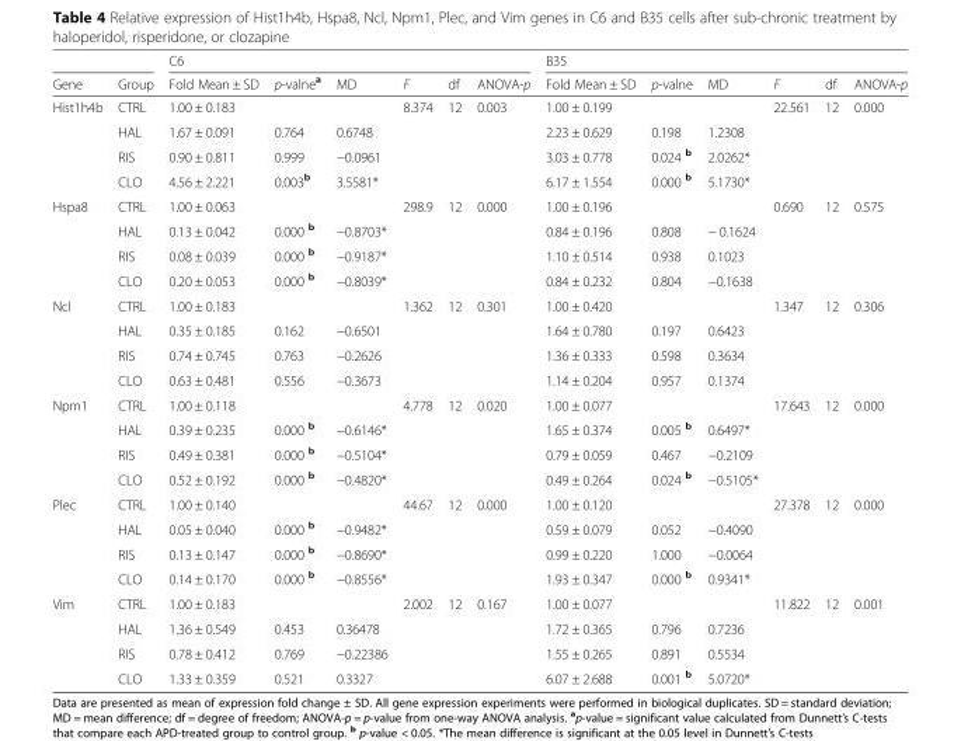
<table><thead><tr><td rowspan="2">Gene</td><td rowspan="2">Group</td><td colspan="6">C6</td><td colspan="6">B35</td></tr><tr><td>Fold Mean ± SD</td><td>p-valne<sup>a</sup></td><td>MD</td><td>F</td><td>df</td><td>ANOVA-p</td><td>Fold Mean ± SD</td><td>p-valne</td><td>MD</td><td>F</td><td>df</td><td>ANOVA-p</td></tr></thead><tbody><tr><td rowspan="4">Hist1h4b</td><td>CTRL</td><td>1.00 ± 0.183</td><td></td><td></td><td rowspan="4">8.374</td><td rowspan="4">12</td><td rowspan="4">0.003</td><td>1.00 ± 0.199</td><td></td><td></td><td rowspan="4">22.561</td><td rowspan="4">12</td><td rowspan="4">0.000</td></tr><tr><td>HAL</td><td>1.67 ± 0.091</td><td>0.764</td><td>0.6748</td><td>2.23 ± 0.629</td><td>0.198</td><td>1.2308</td></tr><tr><td>RIS</td><td>0.90 ± 0.811</td><td>0.999</td><td>−0.0961</td><td>3.03 ± 0.778</td><td>0.024 <sup>b</sup></td><td>2.0262*</td></tr><tr><td>CLO</td><td>4.56 ± 2.221</td><td>0.003<sup>b</sup></td><td>3.5581*</td><td>6.17 ± 1.554</td><td>0.000 <sup>b</sup></td><td>5.1730*</td></tr><tr><td rowspan="4">Hspa8</td><td>CTRL</td><td>1.00 ± 0.063</td><td></td><td></td><td rowspan="4">298.9</td><td rowspan="4">12</td><td rowspan="4">0.000</td><td>1.00 ± 0.196</td><td></td><td></td><td rowspan="4">0.690</td><td rowspan="4">12</td><td rowspan="4">0.575</td></tr><tr><td>HAL</td><td>0.13 ± 0.042</td><td>0.000 <sup>b</sup></td><td>−0.8703*</td><td>0.84 ± 0.196</td><td>0.808</td><td>− 0.1624</td></tr><tr><td>RIS</td><td>0.08 ± 0.039</td><td>0.000 <sup>b</sup></td><td>−0.9187*</td><td>1.10 ± 0.514</td><td>0.938</td><td>0.1023</td></tr><tr><td>CLO</td><td>0.20 ± 0.053</td><td>0.000 <sup>b</sup></td><td>−0.8039*</td><td>0.84 ± 0.232</td><td>0.804</td><td>−0.1638</td></tr><tr><td rowspan="4">Ncl</td><td>CTRL</td><td>1.00 ± 0.183</td><td></td><td></td><td rowspan="4">1.362</td><td rowspan="4">12</td><td rowspan="4">0.301</td><td>1.00 ± 0.420</td><td></td><td></td><td rowspan="4">1.347</td><td rowspan="4">12</td><td rowspan="4">0.306</td></tr><tr><td>HAL</td><td>0.35 ± 0.185</td><td>0.162</td><td>−0.6501</td><td>1.64 ± 0.780</td><td>0.197</td><td>0.6423</td></tr><tr><td>RIS</td><td>0.74 ± 0.745</td><td>0.763</td><td>−0.2626</td><td>1.36 ± 0.333</td><td>0.598</td><td>0.3634</td></tr><tr><td>CLO</td><td>0.63 ± 0.481</td><td>0.556</td><td>−0.3673</td><td>1.14 ± 0.204</td><td>0.957</td><td>0.1374</td></tr><tr><td rowspan="4">Npm1</td><td>CTRL</td><td>1.00 ± 0.118</td><td></td><td></td><td rowspan="4">4.778</td><td rowspan="4">12</td><td rowspan="4">0.020</td><td>1.00 ± 0.077</td><td></td><td></td><td rowspan="4">17.643</td><td rowspan="4">12</td><td rowspan="4">0.000</td></tr><tr><td>HAL</td><td>0.39 ± 0.235</td><td>0.000 <sup>b</sup></td><td>−0.6146*</td><td>1.65 ± 0.374</td><td>0.005 <sup>b</sup></td><td>0.6497*</td></tr><tr><td>RIS</td><td>0.49 ± 0.381</td><td>0.000 <sup>b</sup></td><td>−0.5104*</td><td>0.79 ± 0.059</td><td>0.467</td><td>−0.2109</td></tr><tr><td>CLO</td><td>0.52 ± 0.192</td><td>0.000 <sup>b</sup></td><td>−0.4820*</td><td>0.49 ± 0.264</td><td>0.024 <sup>b</sup></td><td>−0.5105*</td></tr><tr><td rowspan="4">Plec</td><td>CTRL</td><td>1.00 ± 0.140</td><td></td><td></td><td rowspan="4">44.67</td><td rowspan="4">12</td><td rowspan="4">0.000</td><td>1.00 ± 0.120</td><td></td><td></td><td rowspan="4">27.378</td><td rowspan="4">12</td><td rowspan="4">0.000</td></tr><tr><td>HAL</td><td>0.05 ± 0.040</td><td>0.000 <sup>b</sup></td><td>−0.9482*</td><td>0.59 ± 0.079</td><td>0.052</td><td>−0.4090</td></tr><tr><td>RIS</td><td>0.13 ± 0.147</td><td>0.000 <sup>b</sup></td><td>−0.8690*</td><td>0.99 ± 0.220</td><td>1.000</td><td>−0.0064</td></tr><tr><td>CLO</td><td>0.14 ± 0.170</td><td>0.000 <sup>b</sup></td><td>−0.8556*</td><td>1.93 ± 0.347</td><td>0.000 <sup>b</sup></td><td>0.9341*</td></tr><tr><td rowspan="4">Vim</td><td>CTRL</td><td>1.00 ± 0.183</td><td></td><td></td><td rowspan="4">2.002</td><td rowspan="4">12</td><td rowspan="4">0.167</td><td>1.00 ± 0.077</td><td></td><td></td><td rowspan="4">11.822</td><td rowspan="4">12</td><td rowspan="4">0.001</td></tr><tr><td>HAL</td><td>1.36 ± 0.549</td><td>0.453</td><td>0.36478</td><td>1.72 ± 0.365</td><td>0.796</td><td>0.7236</td></tr><tr><td>RIS</td><td>0.78 ± 0.412</td><td>0.769</td><td>−0.22386</td><td>1.55 ± 0.265</td><td>0.891</td><td>0.5534</td></tr><tr><td>CLO</td><td>1.33 ± 0.359</td><td>0.521</td><td>0.3327</td><td>6.07 ± 2.688</td><td>0.001 <sup>b</sup></td><td>5.0720*</td></tr></tbody></table>